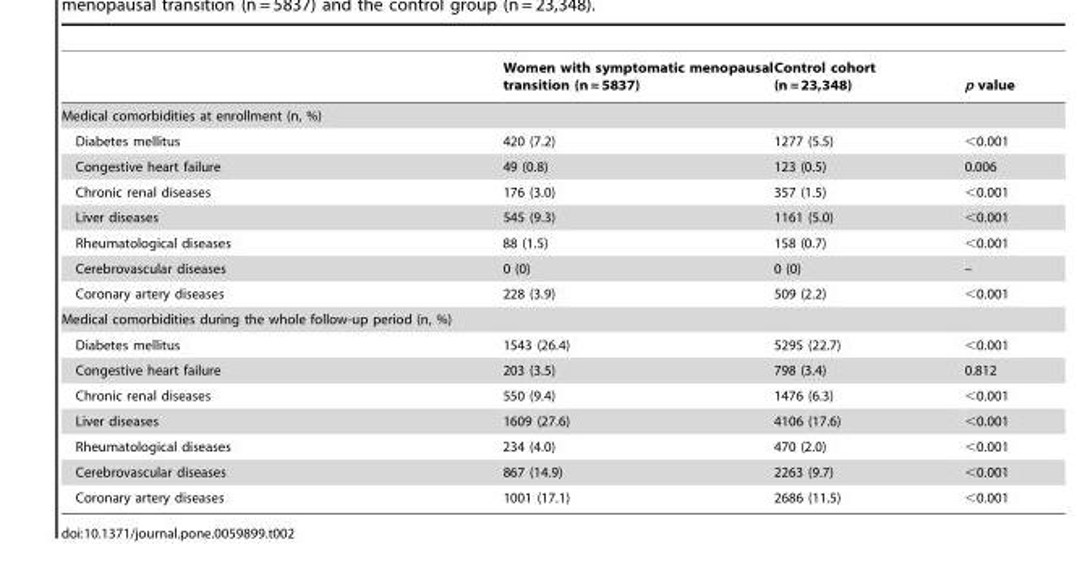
<table><thead><tr><td></td><td>Women with symptomatic menopausal transition (n = 5837)</td><td>Control cohort (n = 23,348)</td><td>p value</td></tr></thead><tbody><tr><td colspan="4">Medical comorbidities at enrollment (n, %)</td></tr><tr><td>Diabetes mellitus</td><td>420 (7.2)</td><td>1277 (5.5)</td><td>&lt;0.001</td></tr><tr><td>Congestive heart failure</td><td>49 (0.8)</td><td>123 (0.5)</td><td>0.006</td></tr><tr><td>Chronic renal diseases</td><td>176 (3.0)</td><td>357 (1.5)</td><td>&lt;0.001</td></tr><tr><td>Liver diseases</td><td>545 (9.3)</td><td>1161 (5.0)</td><td>&lt;0.001</td></tr><tr><td>Rheumatological diseases</td><td>88 (1.5)</td><td>158 (0.7)</td><td>&lt;0.001</td></tr><tr><td>Cerebrovascular diseases</td><td>0 (0)</td><td>0 (0)</td><td>–</td></tr><tr><td>Coronary artery diseases</td><td>228 (3.9)</td><td>509 (2.2)</td><td>&lt;0.001</td></tr><tr><td colspan="4">Medical comorbidities during the whole follow-up period (n, %)</td></tr><tr><td>Diabetes mellitus</td><td>1543 (26.4)</td><td>5295 (22.7)</td><td>&lt;0.001</td></tr><tr><td>Congestive heart failure</td><td>203 (3.5)</td><td>798 (3.4)</td><td>0.812</td></tr><tr><td>Chronic renal diseases</td><td>550 (9.4)</td><td>1476 (6.3)</td><td>&lt;0.001</td></tr><tr><td>Liver diseases</td><td>1609 (27.6)</td><td>4106 (17.6)</td><td>&lt;0.001</td></tr><tr><td>Rheumatological diseases</td><td>234 (4.0)</td><td>470 (2.0)</td><td>&lt;0.001</td></tr><tr><td>Cerebrovascular diseases</td><td>867 (14.9)</td><td>2263 (9.7)</td><td>&lt;0.001</td></tr><tr><td>Coronary artery diseases</td><td>1001 (17.1)</td><td>2686 (11.5)</td><td>&lt;0.001</td></tr></tbody></table>